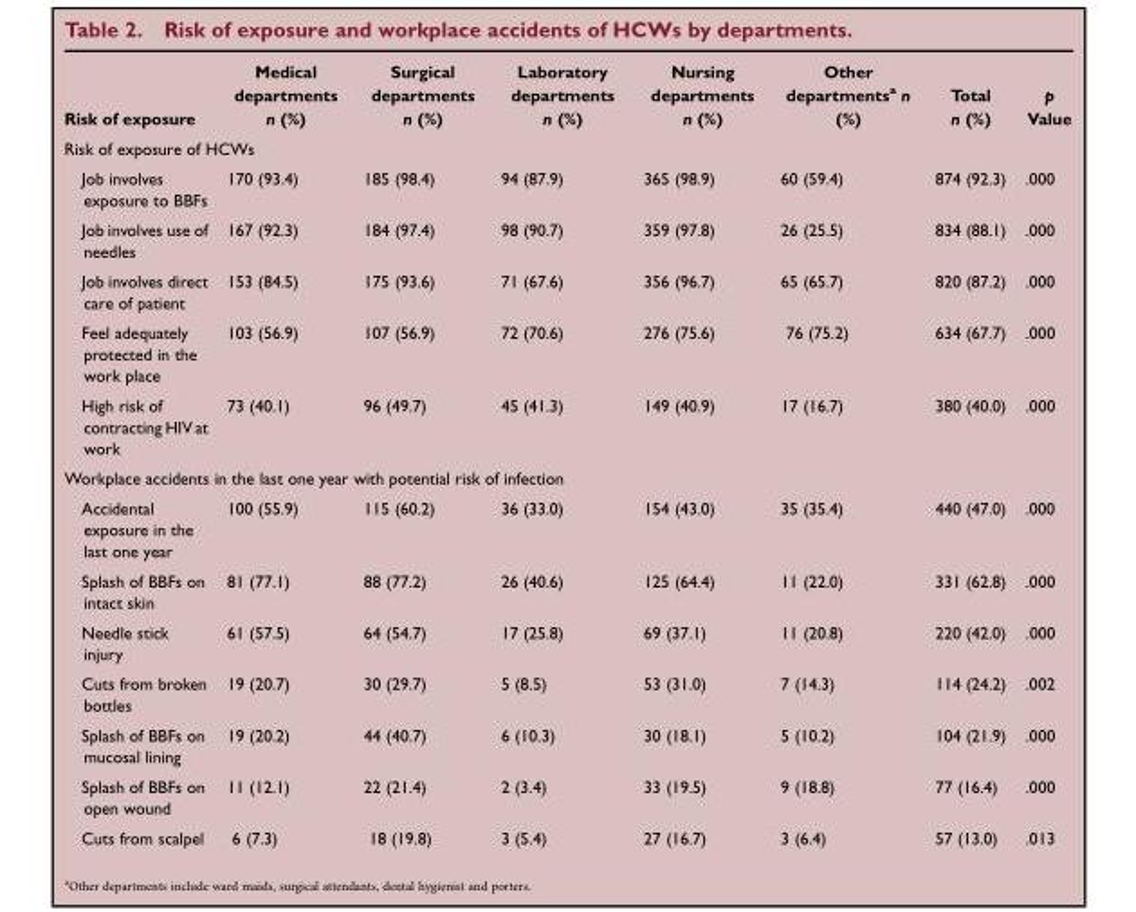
<table><thead><tr><td>Risk of exposure</td><td>Medical departments n (%)</td><td>Surgical departments n (%)</td><td>Laboratory departments n (%)</td><td>Nursing departments n (%)</td><td>Other departments<sup>a</sup> n (%)</td><td>Total n (%)</td><td>p Value</td></tr></thead><tbody><tr><td colspan="8">Risk of exposure of HCWs</td></tr><tr><td>Job involves exposure to BBFs</td><td>170 (93.4)</td><td>185 (98.4)</td><td>94 (87.9)</td><td>365 (98.9)</td><td>60 (59.4)</td><td>874 (92.3)</td><td>.000</td></tr><tr><td>Job involves use of needles</td><td>167 (92.3)</td><td>184 (97.4)</td><td>98 (90.7)</td><td>359 (97.8)</td><td>26 (25.5)</td><td>834 (88.1)</td><td>.000</td></tr><tr><td>Job involves direct care of patient</td><td>153 (84.5)</td><td>175 (93.6)</td><td>71 (67.6)</td><td>356 (96.7)</td><td>65 (65.7)</td><td>820 (87.2)</td><td>.000</td></tr><tr><td>Feel adequately protected in the work place</td><td>103 (56.9)</td><td>107 (56.9)</td><td>72 (70.6)</td><td>276 (75.6)</td><td>76 (75.2)</td><td>634 (67.7)</td><td>.000</td></tr><tr><td>High risk of contracting HIV at work</td><td>73 (40.1)</td><td>96 (49.7)</td><td>45 (41.3)</td><td>149 (40.9)</td><td>17 (16.7)</td><td>380 (40.0)</td><td>.000</td></tr><tr><td colspan="8">Workplace accidents in the last one year with potential risk of infection</td></tr><tr><td>Accidental exposure in the last one year</td><td>100 (55.9)</td><td>115 (60.2)</td><td>36 (33.0)</td><td>154 (43.0)</td><td>35 (35.4)</td><td>440 (47.0)</td><td>.000</td></tr><tr><td>Splash of BBFs on intact skin</td><td>81 (77.1)</td><td>88 (77.2)</td><td>26 (40.6)</td><td>125 (64.4)</td><td>11 (22.0)</td><td>331 (62.8)</td><td>.000</td></tr><tr><td>Needle stick injury</td><td>61 (57.5)</td><td>64 (54.7)</td><td>17 (25.8)</td><td>69 (37.1)</td><td>11 (20.8)</td><td>220 (42.0)</td><td>.000</td></tr><tr><td>Cuts from broken bottles</td><td>19 (20.7)</td><td>30 (29.7)</td><td>5 (8.5)</td><td>53 (31.0)</td><td>7 (14.3)</td><td>114 (24.2)</td><td>.002</td></tr><tr><td>Splash of BBFs on mucosal lining</td><td>19 (20.2)</td><td>44 (40.7)</td><td>6 (10.3)</td><td>30 (18.1)</td><td>5 (10.2)</td><td>104 (21.9)</td><td>.000</td></tr><tr><td>Splash of BBFs on open wound</td><td>11 (12.1)</td><td>22 (21.4)</td><td>2 (3.4)</td><td>33 (19.5)</td><td>9 (18.8)</td><td>77 (16.4)</td><td>.000</td></tr><tr><td>Cuts from scalpel</td><td>6 (7.3)</td><td>18 (19.8)</td><td>3 (5.4)</td><td>27 (16.7)</td><td>3 (6.4)</td><td>57 (13.0)</td><td>.013</td></tr></tbody></table>